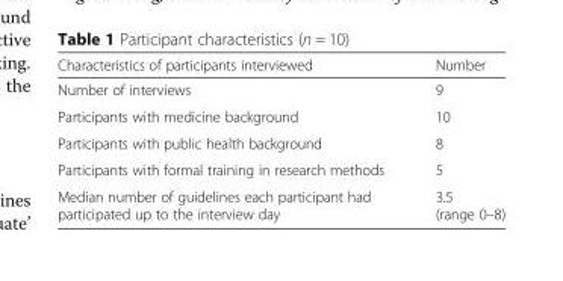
<table><thead><tr><td>Characteristics of participants interviewed</td><td>Number</td></tr></thead><tbody><tr><td>Number of interviews</td><td>9</td></tr><tr><td>Participants with medicine background</td><td>10</td></tr><tr><td>Participants with public health background</td><td>8</td></tr><tr><td>Participants with formal training in research methods</td><td>5</td></tr><tr><td>Median number of guidelines each participant had participated up to the interview day</td><td>3.5 (range 0–8)</td></tr></tbody></table>